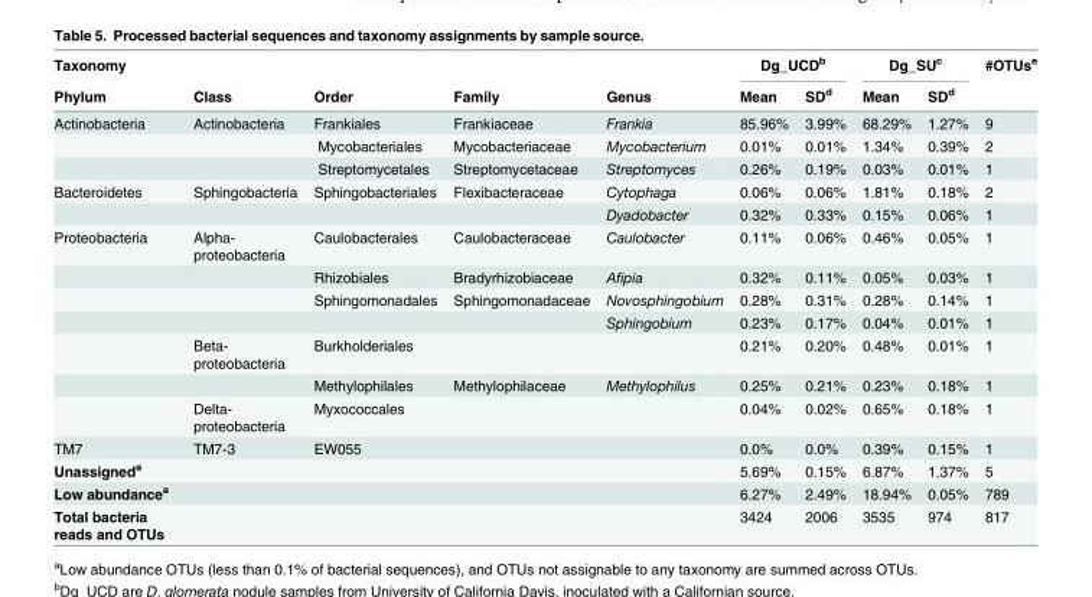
<table><thead><tr><td rowspan="2">Taxonomy Phylum</td><td rowspan="2">Class</td><td rowspan="2">Order</td><td rowspan="2">Family</td><td rowspan="2">Genus</td><td colspan="2">Dg_UCD<sup>b</sup></td><td colspan="2">Dg_SU<sup>c</sup></td><td rowspan="2">#OTUs<sup>e</sup></td></tr><tr><td>Mean</td><td>SD<sup>d</sup></td><td>Mean</td><td>SD<sup>d</sup></td></tr></thead><tbody><tr><td rowspan="3">Actinobacteria</td><td>Actinobacteria</td><td>Frankiales</td><td>Frankiaceae</td><td>Frankia</td><td>85.96%</td><td>3.99%</td><td>68.29%</td><td>1.27%</td><td>9</td></tr><tr><td></td><td>Mycobacteriales</td><td>Mycobacteriaceae</td><td>Mycobacterium</td><td>0.01%</td><td>0.01%</td><td>1.34%</td><td>0.39%</td><td>2</td></tr><tr><td></td><td>Streptomycetales</td><td>Streptomycetaceae</td><td>Streptomyces</td><td>0.26%</td><td>0.19%</td><td>0.03%</td><td>0.01%</td><td>1</td></tr><tr><td rowspan="2">Bacteroidetes</td><td>Sphingobacteria</td><td>Sphingobacteriales</td><td>Flexibacteraceae</td><td>Cytophaga</td><td>0.06%</td><td>0.06%</td><td>1.81%</td><td>0.18%</td><td>2</td></tr><tr><td></td><td></td><td></td><td>Dyadobacter</td><td>0.32%</td><td>0.33%</td><td>0.15%</td><td>0.06%</td><td>1</td></tr><tr><td rowspan="7">Proteobacteria</td><td>Alpha- proteobacteria</td><td>Caulobacterales</td><td>Caulobacteraceae</td><td>Caulobacter</td><td>0.11%</td><td>0.06%</td><td>0.46%</td><td>0.05%</td><td>1</td></tr><tr><td></td><td>Rhizobiales</td><td>Bradyrhizobiaceae</td><td>Afipia</td><td>0.32%</td><td>0.11%</td><td>0.05%</td><td>0.03%</td><td>1</td></tr><tr><td></td><td>Sphingomonadales</td><td>Sphingomonadaceae</td><td>Novosphingobium</td><td>0.28%</td><td>0.31%</td><td>0.28%</td><td>0.14%</td><td>1</td></tr><tr><td></td><td></td><td></td><td>Sphingobium</td><td>0.23%</td><td>0.17%</td><td>0.04%</td><td>0.01%</td><td>1</td></tr><tr><td>Beta- proteobacteria</td><td>Burkholderiales</td><td></td><td></td><td>0.21%</td><td>0.20%</td><td>0.48%</td><td>0.01%</td><td>1</td></tr><tr><td></td><td>Methylophilales</td><td>Methylophilaceae</td><td>Methylophilus</td><td>0.25%</td><td>0.21%</td><td>0.23%</td><td>0.18%</td><td>1</td></tr><tr><td>Delta- proteobacteria</td><td>Myxococcales</td><td></td><td></td><td>0.04%</td><td>0.02%</td><td>0.65%</td><td>0.18%</td><td>1</td></tr><tr><td>TM7</td><td>TM7-3</td><td>EW055</td><td></td><td></td><td>0.0%</td><td>0.0%</td><td>0.39%</td><td>0.15%</td><td>1</td></tr><tr><td>Unassigned<sup>a</sup></td><td></td><td></td><td></td><td></td><td>5.69%</td><td>0.15%</td><td>6.87%</td><td>1.37%</td><td>5</td></tr><tr><td>Low abundance<sup>a</sup></td><td></td><td></td><td></td><td></td><td>6.27%</td><td>2.49%</td><td>18.94%</td><td>0.05%</td><td>789</td></tr><tr><td>Total bacteria reads and OTUs</td><td></td><td></td><td></td><td></td><td>3424</td><td>2006</td><td>3535</td><td>974</td><td>817</td></tr></tbody></table>